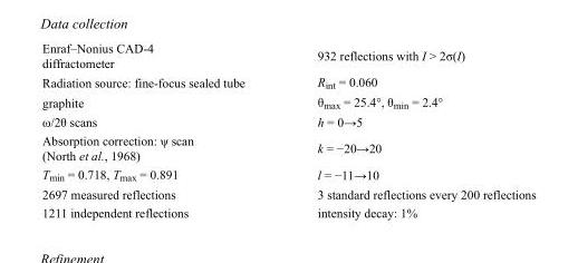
<table><tbody><tr><td>Enraf–Nonius CAD-4 diffractometer</td><td>932 reflections with I &gt; 2σ(I)</td></tr><tr><td>Radiation source: fine-focus sealed tube</td><td>R<sub>int</sub> = 0.060</td></tr><tr><td>graphite</td><td>θ<sub>max</sub> = 25.4°, θ<sub>min</sub> = 2.4°</td></tr><tr><td>ω/2θ scans</td><td>h = 0→5</td></tr><tr><td>Absorption correction: ψ scan (North et al., 1968)</td><td>k = −20→20</td></tr><tr><td>T<sub>min</sub> = 0.718, T<sub>max</sub> = 0.891</td><td>l = −11→10</td></tr><tr><td>2697 measured reflections</td><td>3 standard reflections every 200 reflections</td></tr><tr><td>1211 independent reflections</td><td>intensity decay: 1%</td></tr></tbody></table>